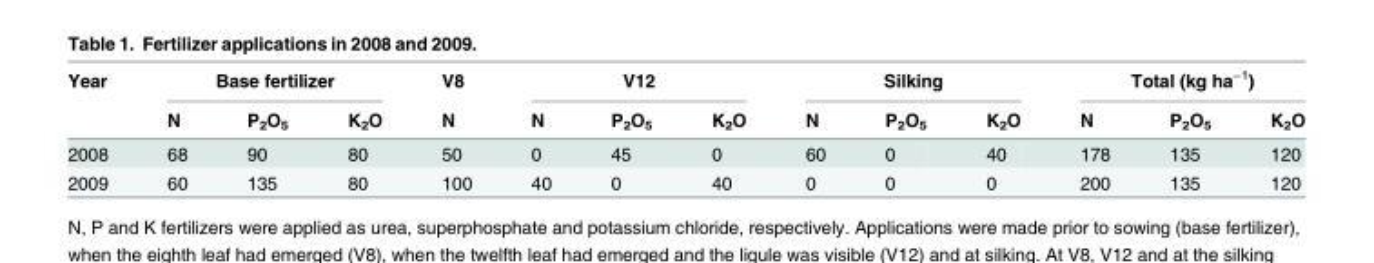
<table><thead><tr><td rowspan="2">Year</td><td colspan="3">Base fertilizer</td><td rowspan="2">V8 N</td><td colspan="3">V12</td><td colspan="3">Silking</td><td colspan="3">Total (kg ha<sup>−1</sup>)</td></tr><tr><td>N</td><td>P<sub>2</sub>O<sub>5</sub></td><td>K<sub>2</sub>O</td><td>N</td><td>P<sub>2</sub>O<sub>5</sub></td><td>K<sub>2</sub>O</td><td>N</td><td>P<sub>2</sub>O<sub>5</sub></td><td>K<sub>2</sub>O</td><td>N</td><td>P<sub>2</sub>O<sub>5</sub></td><td>K<sub>2</sub>O</td></tr></thead><tbody><tr><td>2008</td><td>68</td><td>90</td><td>80</td><td>50</td><td>0</td><td>45</td><td>0</td><td>60</td><td>0</td><td>40</td><td>178</td><td>135</td><td>120</td></tr><tr><td>2009</td><td>60</td><td>135</td><td>80</td><td>100</td><td>40</td><td>0</td><td>40</td><td>0</td><td>0</td><td>0</td><td>200</td><td>135</td><td>120</td></tr></tbody></table>